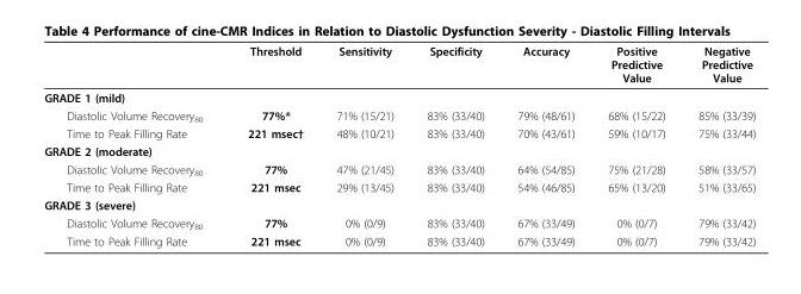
<table><thead><tr><td></td><td>Threshold</td><td>Sensitivity</td><td>Specificity</td><td>Accuracy</td><td>Positive Predictive Value</td><td>Negative Predictive Value</td></tr></thead><tbody><tr><td colspan="7">GRADE 1 (mild)</td></tr><tr><td>Diastolic Volume Recovery<sub>80</sub></td><td>77%*</td><td>71% (15/21)</td><td>83% (33/40)</td><td>79% (48/61)</td><td>68% (15/22)</td><td>85% (33/39)</td></tr><tr><td>Time to Peak Filling Rate</td><td>221 msec†</td><td>48% (10/21)</td><td>83% (33/40)</td><td>70% (43/61)</td><td>59% (10/17)</td><td>75% (33/44)</td></tr><tr><td colspan="7">GRADE 2 (moderate)</td></tr><tr><td>Diastolic Volume Recovery<sub>80</sub></td><td>77%</td><td>47% (21/45)</td><td>83% (33/40)</td><td>64% (54/85)</td><td>75% (21/28)</td><td>58% (33/57)</td></tr><tr><td>Time to Peak Filling Rate</td><td>221 msec</td><td>29% (13/45)</td><td>83% (33/40)</td><td>54% (46/85)</td><td>65% (13/20)</td><td>51% (33/65)</td></tr><tr><td colspan="7">GRADE 3 (severe)</td></tr><tr><td>Diastolic Volume Recovery<sub>80</sub></td><td>77%</td><td>0% (0/9)</td><td>83% (33/40)</td><td>67% (33/49)</td><td>0% (0/7)</td><td>79% (33/42)</td></tr><tr><td>Time to Peak Filling Rate</td><td>221 msec</td><td>0% (0/9)</td><td>83% (33/40)</td><td>67% (33/49)</td><td>0% (0/7)</td><td>79% (33/42)</td></tr></tbody></table>